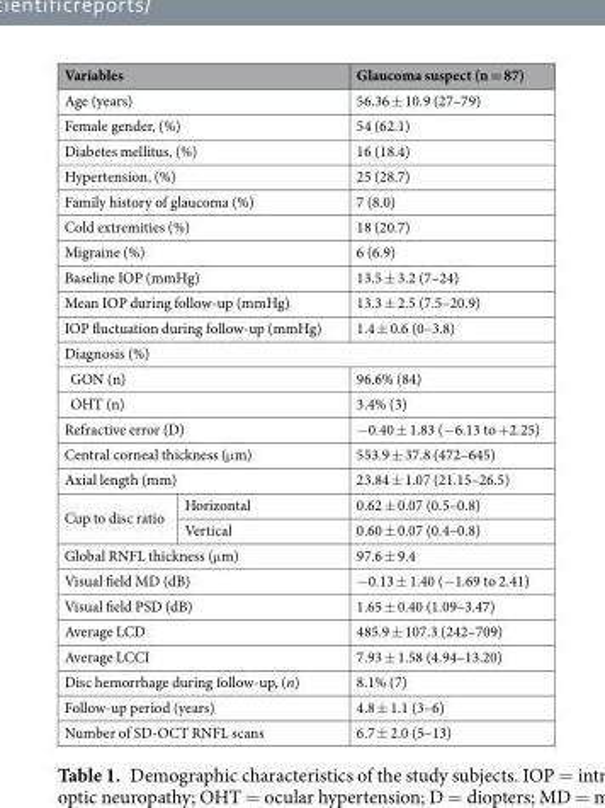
<table><thead><tr><td colspan="2">Variables</td><td>Glaucoma suspect (n = 87)</td></tr></thead><tbody><tr><td colspan="2">Age (years)</td><td>56.36 ± 10.9 (27–79)</td></tr><tr><td colspan="2">Female gender, (%)</td><td>54 (62.1)</td></tr><tr><td colspan="2">Diabetes mellitus, (%)</td><td>16 (18.4)</td></tr><tr><td colspan="2">Hypertension, (%)</td><td>25 (28.7)</td></tr><tr><td colspan="2">Family history of glaucoma (%)</td><td>7 (8.0)</td></tr><tr><td colspan="2">Cold extremities (%)</td><td>18 (20.7)</td></tr><tr><td colspan="2">Migraine (%)</td><td>6 (6.9)</td></tr><tr><td colspan="2">Baseline IOP (mmHg)</td><td>13.5 ± 3.2 (7–24)</td></tr><tr><td colspan="2">Mean IOP during follow-up (mmHg)</td><td>13.3 ± 2.5 (7.5–20.9)</td></tr><tr><td colspan="2">IOP fluctuation during follow-up (mmHg)</td><td>1.4 ± 0.6 (0–3.8)</td></tr><tr><td colspan="3">Diagnosis (%)</td></tr><tr><td colspan="2">GON (n)</td><td>96.6% (84)</td></tr><tr><td colspan="2">OHT (n)</td><td>3.4% (3)</td></tr><tr><td colspan="2">Refractive error (D)</td><td>−0.40 ± 1.83 (−6.13 to +2.25)</td></tr><tr><td colspan="2">Central corneal thickness (μm)</td><td>553.9 ± 37.8 (472–645)</td></tr><tr><td colspan="2">Axial length (mm)</td><td>23.84 ± 1.07 (21.15–26.5)</td></tr><tr><td rowspan="2">Cup to disc ratio</td><td>Horizontal</td><td>0.62 ± 0.07 (0.5–0.8)</td></tr><tr><td>Vertical</td><td>0.60 ± 0.07 (0.4–0.8)</td></tr><tr><td colspan="2">Global RNFL thickness (μm)</td><td>97.6 ± 9.4</td></tr><tr><td colspan="2">Visual field MD (dB)</td><td>−0.13 ± 1.40 (−1.69 to 2.41)</td></tr><tr><td colspan="2">Visual field PSD (dB)</td><td>1.65 ± 0.40 (1.09–3.47)</td></tr><tr><td colspan="2">Average LCD</td><td>485.9 ± 107.3 (242–709)</td></tr><tr><td colspan="2">Average LCCI</td><td>7.93 ± 1.58 (4.94–13.20)</td></tr><tr><td colspan="2">Disc hemorrhage during follow-up, (n)</td><td>8.1% (7)</td></tr><tr><td colspan="2">Follow-up period (years)</td><td>4.8 ± 1.1 (3–6)</td></tr><tr><td colspan="2">Number of SD-OCT RNFL scans</td><td>6.7 ± 2.0 (5–13)</td></tr></tbody></table>